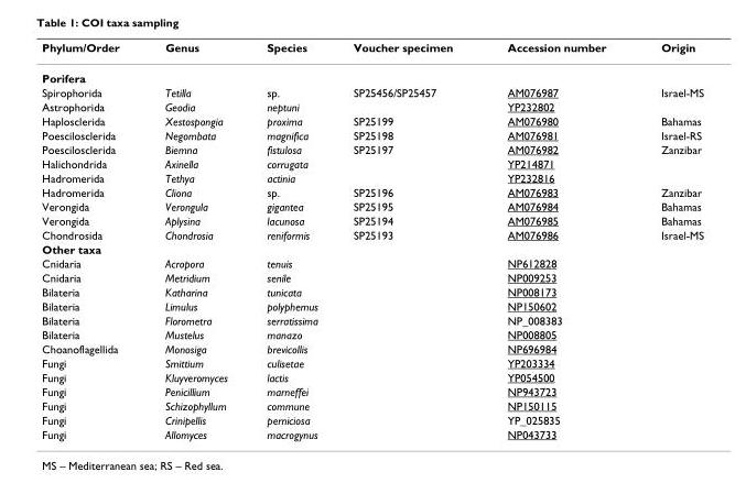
<table><thead><tr><td>Phylum/Order</td><td>Genus</td><td>Species</td><td>Voucher specimen</td><td>Accession number</td><td>Origin</td></tr></thead><tbody><tr><td colspan="6">Porifera</td></tr><tr><td>Spirophorida</td><td>Tetilla</td><td>sp.</td><td>SP25456/SP25457</td><td>AM076987</td><td>Israel-MS</td></tr><tr><td>Astrophorida</td><td>Geodia</td><td>neptuni</td><td></td><td>YP232802</td><td></td></tr><tr><td>Haplosclerida</td><td>Xestospongia</td><td>proxima</td><td>SP25199</td><td>AM076980</td><td>Bahamas</td></tr><tr><td>Poescilosclerida</td><td>Negombata</td><td>magnifica</td><td>SP25198</td><td>AM076981</td><td>Israel-RS</td></tr><tr><td>Poescilosclerida</td><td>Biemna</td><td>fistulosa</td><td>SP25197</td><td>AM076982</td><td>Zanzibar</td></tr><tr><td>Halichondrida</td><td>Axinella</td><td>corrugata</td><td></td><td>YP214871</td><td></td></tr><tr><td>Hadromerida</td><td>Tethya</td><td>actinia</td><td></td><td>YP232816</td><td></td></tr><tr><td>Hadromerida</td><td>Cliona</td><td>sp.</td><td>SP25196</td><td>AM076983</td><td>Zanzibar</td></tr><tr><td>Verongida</td><td>Verongula</td><td>gigantea</td><td>SP25195</td><td>AM076984</td><td>Bahamas</td></tr><tr><td>Verongida</td><td>Aplysina</td><td>lacunosa</td><td>SP25194</td><td>AM076985</td><td>Bahamas</td></tr><tr><td>Chondrosida</td><td>Chondrosia</td><td>reniformis</td><td>SP25193</td><td>AM076986</td><td>Israel-MS</td></tr><tr><td colspan="6">Other taxa</td></tr><tr><td>Cnidaria</td><td>Acropora</td><td>tenuis</td><td></td><td>NP612828</td><td></td></tr><tr><td>Cnidaria</td><td>Metridium</td><td>senile</td><td></td><td>NP009253</td><td></td></tr><tr><td>Bilateria</td><td>Katharina</td><td>tunicata</td><td></td><td>NP008173</td><td></td></tr><tr><td>Bilateria</td><td>Limulus</td><td>polyphemus</td><td></td><td>NP150602</td><td></td></tr><tr><td>Bilateria</td><td>Florometra</td><td>serratissima</td><td></td><td>NP_008383</td><td></td></tr><tr><td>Bilateria</td><td>Mustelus</td><td>manazo</td><td></td><td>NP008805</td><td></td></tr><tr><td>Choanoflagellida</td><td>Monosiga</td><td>brevicollis</td><td></td><td>NP696984</td><td></td></tr><tr><td>Fungi</td><td>Smittium</td><td>culisetae</td><td></td><td>YP203334</td><td></td></tr><tr><td>Fungi</td><td>Kluyveromyces</td><td>lactis</td><td></td><td>YP054500</td><td></td></tr><tr><td>Fungi</td><td>Penicillium</td><td>marneffei</td><td></td><td>NP943723</td><td></td></tr><tr><td>Fungi</td><td>Schizophyllum</td><td>commune</td><td></td><td>NP150115</td><td></td></tr><tr><td>Fungi</td><td>Crinipellis</td><td>perniciosa</td><td></td><td>YP_025835</td><td></td></tr><tr><td>Fungi</td><td>Allomyces</td><td>macrogynus</td><td></td><td>NP043733</td><td></td></tr></tbody></table>